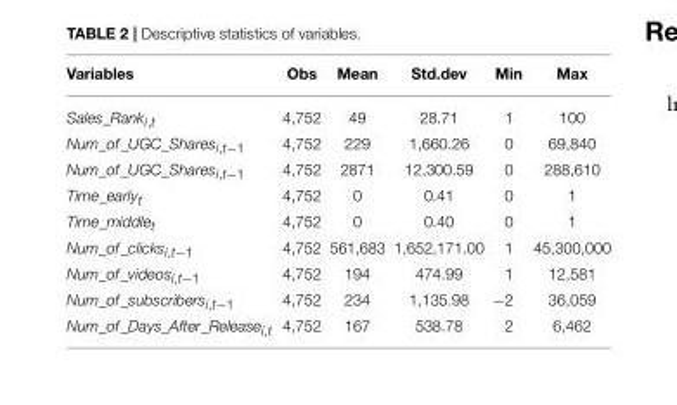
<table><thead><tr><td>Variables</td><td>Obs</td><td>Mean</td><td>Std.dev</td><td>Min</td><td>Max</td></tr></thead><tbody><tr><td>Sales_Rank<sub>i,t</sub></td><td>4,752</td><td>49</td><td>28.71</td><td>1</td><td>100</td></tr><tr><td>Num_of_UGC_Shares<sub>i,t−1</sub></td><td>4,752</td><td>229</td><td>1,660.26</td><td>0</td><td>69,840</td></tr><tr><td>Num_of_UGC_Shares<sub>i,t−1</sub></td><td>4,752</td><td>2871</td><td>12,300.59</td><td>0</td><td>288,610</td></tr><tr><td>Time_early<sub>t</sub></td><td>4,752</td><td>0</td><td>0.41</td><td>0</td><td>1</td></tr><tr><td>Time_middle<sub>t</sub></td><td>4,752</td><td>0</td><td>0.40</td><td>0</td><td>1</td></tr><tr><td>Num_of_clicks<sub>i,t−1</sub></td><td>4,752</td><td>561,683</td><td>1,652,171.00</td><td>1</td><td>45,300,000</td></tr><tr><td>Num_of_videos<sub>i,t−1</sub></td><td>4,752</td><td>194</td><td>474.99</td><td>1</td><td>12,581</td></tr><tr><td>Num_of_subscribers<sub>i,t−1</sub></td><td>4,752</td><td>234</td><td>1,135.98</td><td>−2</td><td>36,059</td></tr><tr><td>Num_of_Days_After_Release<sub>i,t</sub></td><td>4,752</td><td>167</td><td>538.78</td><td>2</td><td>6,462</td></tr></tbody></table>